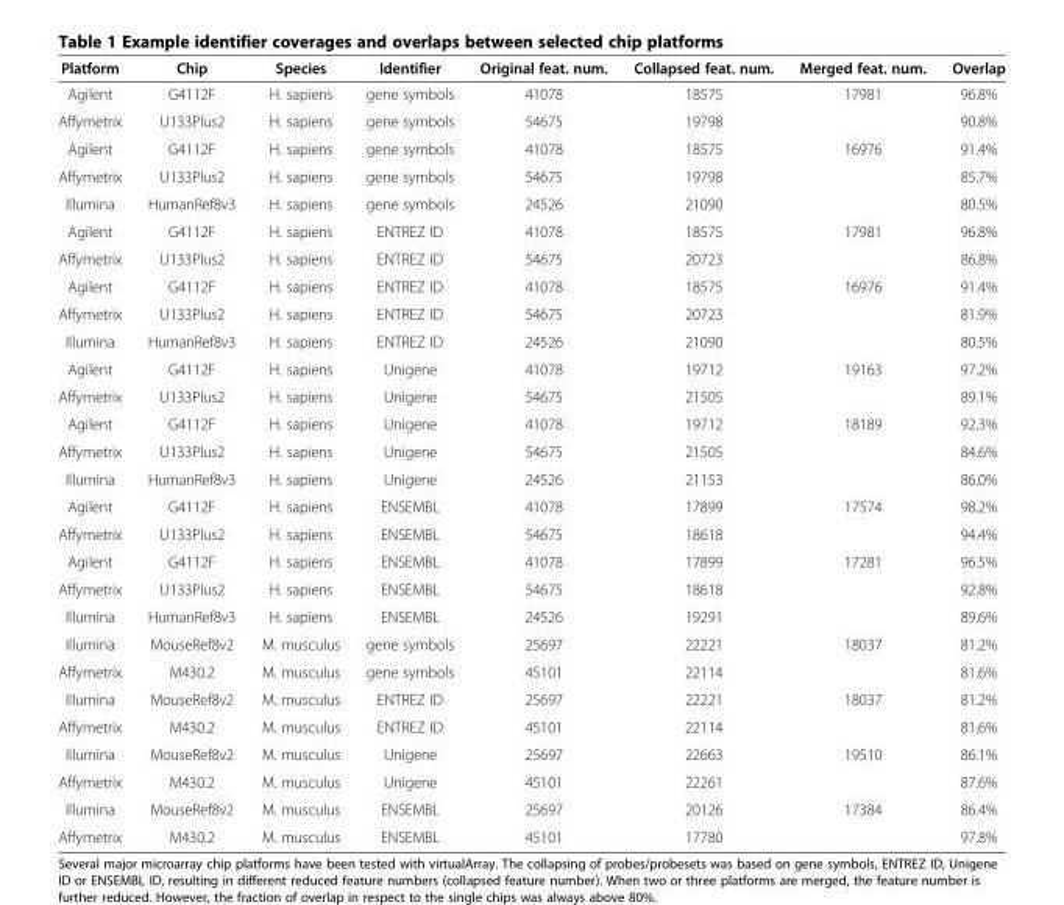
<table><thead><tr><td>Platform</td><td>Chip</td><td>Species</td><td>Identifier</td><td>Original feat. num.</td><td>Collapsed feat. num.</td><td>Merged feat. num.</td><td>Overlap</td></tr></thead><tbody><tr><td>Agilent</td><td>G4112F</td><td>H. sapiens</td><td>gene symbols</td><td>41078</td><td>18575</td><td rowspan="2">17981</td><td>96.8%</td></tr><tr><td>Affymetrix</td><td>U133Plus2</td><td>H. sapiens</td><td>gene symbols</td><td>54675</td><td>19798</td><td>90.8%</td></tr><tr><td>Agilent</td><td>G4112F</td><td>H. sapiens</td><td>gene symbols</td><td>41078</td><td>18575</td><td rowspan="3">16976</td><td>91.4%</td></tr><tr><td>Affymetrix</td><td>U133Plus2</td><td>H. sapiens</td><td>gene symbols</td><td>54675</td><td>19798</td><td>85.7%</td></tr><tr><td>Illumina</td><td>HumanRef8v3</td><td>H. sapiens</td><td>gene symbols</td><td>24526</td><td>21090</td><td>80.5%</td></tr><tr><td>Agilent</td><td>G4112F</td><td>H. sapiens</td><td>ENTREZ ID</td><td>41078</td><td>18575</td><td rowspan="2">17981</td><td>96.8%</td></tr><tr><td>Affymetrix</td><td>U133Plus2</td><td>H. sapiens</td><td>ENTREZ ID</td><td>54675</td><td>20723</td><td>86.8%</td></tr><tr><td>Agilent</td><td>G4112F</td><td>H. sapiens</td><td>ENTREZ ID</td><td>41078</td><td>18575</td><td rowspan="3">16976</td><td>91.4%</td></tr><tr><td>Affymetrix</td><td>U133Plus2</td><td>H. sapiens</td><td>ENTREZ ID</td><td>54675</td><td>20723</td><td>81.9%</td></tr><tr><td>Illumina</td><td>HumanRef8v3</td><td>H. sapiens</td><td>ENTREZ ID</td><td>24526</td><td>21090</td><td>80.5%</td></tr><tr><td>Agilent</td><td>G4112F</td><td>H. sapiens</td><td>Unigene</td><td>41078</td><td>19712</td><td rowspan="2">19163</td><td>97.2%</td></tr><tr><td>Affymetrix</td><td>U133Plus2</td><td>H. sapiens</td><td>Unigene</td><td>54675</td><td>21505</td><td>89.1%</td></tr><tr><td>Agilent</td><td>G4112F</td><td>H. sapiens</td><td>Unigene</td><td>41078</td><td>19712</td><td rowspan="3">18189</td><td>92.3%</td></tr><tr><td>Affymetrix</td><td>U133Plus2</td><td>H. sapiens</td><td>Unigene</td><td>54675</td><td>21505</td><td>84.6%</td></tr><tr><td>Illumina</td><td>HumanRef8v3</td><td>H. sapiens</td><td>Unigene</td><td>24526</td><td>21153</td><td>86.0%</td></tr><tr><td>Agilent</td><td>G4112F</td><td>H. sapiens</td><td>ENSEMBL</td><td>41078</td><td>17899</td><td rowspan="2">17574</td><td>98.2%</td></tr><tr><td>Affymetrix</td><td>U133Plus2</td><td>H. sapiens</td><td>ENSEMBL</td><td>54675</td><td>18618</td><td>94.4%</td></tr><tr><td>Agilent</td><td>G4112F</td><td>H. sapiens</td><td>ENSEMBL</td><td>41078</td><td>17899</td><td rowspan="3">17281</td><td>96.5%</td></tr><tr><td>Affymetrix</td><td>U133Plus2</td><td>H. sapiens</td><td>ENSEMBL</td><td>54675</td><td>18618</td><td>92.8%</td></tr><tr><td>Illumina</td><td>HumanRef8v3</td><td>H. sapiens</td><td>ENSEMBL</td><td>24526</td><td>19291</td><td>89.6%</td></tr><tr><td>Illumina</td><td>MouseRef8v2</td><td>M. musculus</td><td>gene symbols</td><td>25697</td><td>22221</td><td rowspan="2">18037</td><td>81.2%</td></tr><tr><td>Affymetrix</td><td>M430.2</td><td>M. musculus</td><td>gene symbols</td><td>45101</td><td>22114</td><td>81.6%</td></tr><tr><td>Illumina</td><td>MouseRef8v2</td><td>M. musculus</td><td>ENTREZ ID</td><td>25697</td><td>22221</td><td rowspan="2">18037</td><td>81.2%</td></tr><tr><td>Affymetrix</td><td>M430.2</td><td>M. musculus</td><td>ENTREZ ID</td><td>45101</td><td>22114</td><td>81.6%</td></tr><tr><td>Illumina</td><td>MouseRef8v2</td><td>M. musculus</td><td>Unigene</td><td>25697</td><td>22663</td><td rowspan="2">19510</td><td>86.1%</td></tr><tr><td>Affymetrix</td><td>M430.2</td><td>M. musculus</td><td>Unigene</td><td>45101</td><td>22261</td><td>87.6%</td></tr><tr><td>Illumina</td><td>MouseRef8v2</td><td>M. musculus</td><td>ENSEMBL</td><td>25697</td><td>20126</td><td>17384</td><td>86.4%</td></tr><tr><td>Affymetrix</td><td>M430.2</td><td>M. musculus</td><td>ENSEMBL</td><td>45101</td><td>17780</td><td></td><td>97.8%</td></tr></tbody></table>